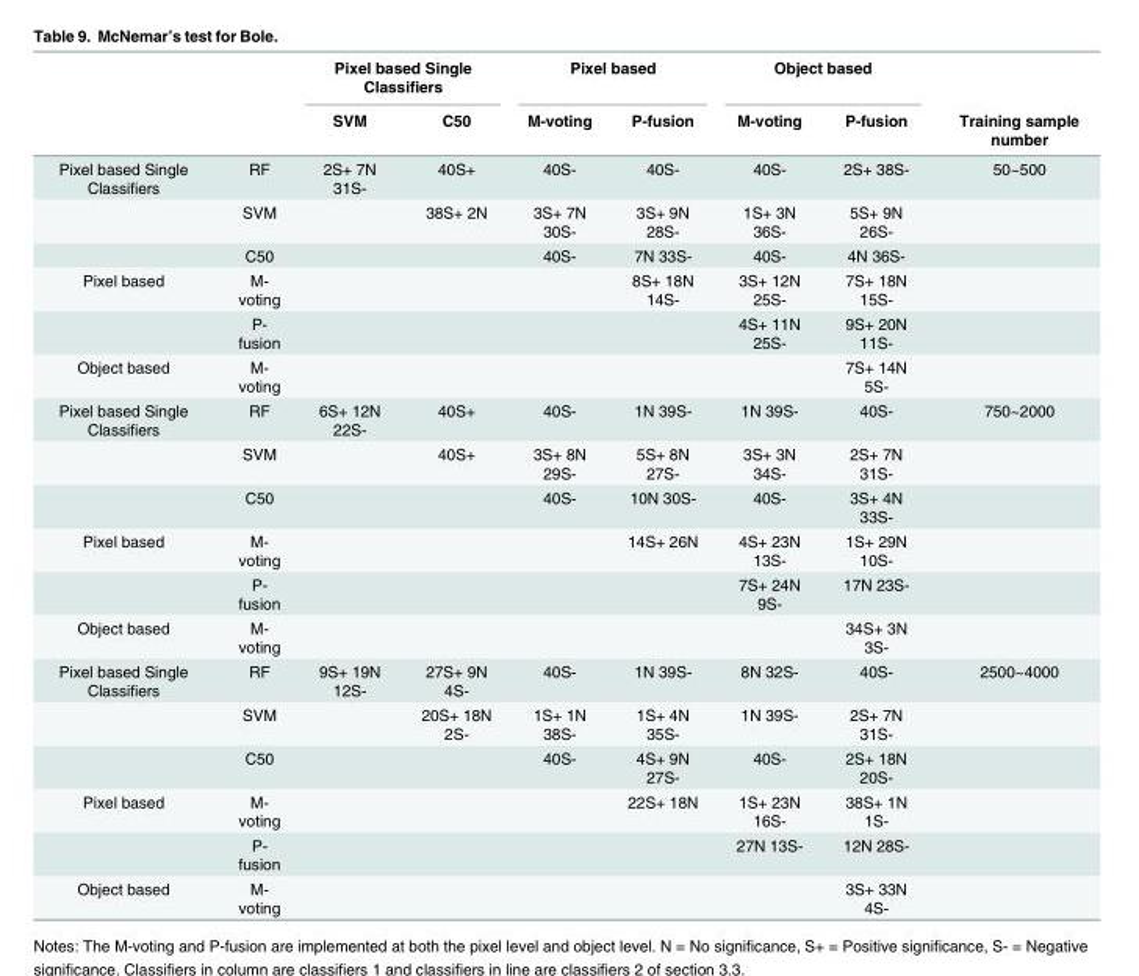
<table><thead><tr><td rowspan="2"></td><td rowspan="2"></td><td colspan="2">Pixel based Single Classifiers</td><td colspan="2">Pixel based</td><td colspan="2">Object based</td><td rowspan="2">Training sample number</td></tr><tr><td>SVM</td><td>C50</td><td>M-voting</td><td>P-fusion</td><td>M-voting</td><td>P-fusion</td></tr></thead><tbody><tr><td rowspan="3">Pixel based Single Classifiers</td><td>RF</td><td>2S+ 7N 31S-</td><td>40S+</td><td>40S-</td><td>40S-</td><td>40S-</td><td>2S+ 38S-</td><td>50~500</td></tr><tr><td>SVM</td><td></td><td>38S+ 2N</td><td>3S+ 7N 30S-</td><td>3S+ 9N 28S-</td><td>1S+ 3N 36S-</td><td>5S+ 9N 26S-</td><td></td></tr><tr><td>C50</td><td></td><td></td><td>40S-</td><td>7N 33S-</td><td>40S-</td><td>4N 36S-</td><td></td></tr><tr><td rowspan="2">Pixel based</td><td>M- voting</td><td></td><td></td><td></td><td>8S+ 18N 14S-</td><td>3S+ 12N 25S-</td><td>7S+ 18N 15S-</td><td></td></tr><tr><td>P- fusion</td><td></td><td></td><td></td><td></td><td>4S+ 11N 25S-</td><td>9S+ 20N 11S-</td><td></td></tr><tr><td>Object based</td><td>M- voting</td><td></td><td></td><td></td><td></td><td></td><td>7S+ 14N 5S-</td><td></td></tr><tr><td rowspan="3">Pixel based Single Classifiers</td><td>RF</td><td>6S+ 12N 22S-</td><td>40S+</td><td>40S-</td><td>1N 39S-</td><td>1N 39S-</td><td>40S-</td><td>750~2000</td></tr><tr><td>SVM</td><td></td><td>40S+</td><td>3S+ 8N 29S-</td><td>5S+ 8N 27S-</td><td>3S+ 3N 34S-</td><td>2S+ 7N 31S-</td><td></td></tr><tr><td>C50</td><td></td><td></td><td>40S-</td><td>10N 30S-</td><td>40S-</td><td>3S+ 4N 33S-</td><td></td></tr><tr><td rowspan="2">Pixel based</td><td>M- voting</td><td></td><td></td><td></td><td>14S+ 26N</td><td>4S+ 23N 13S-</td><td>1S+ 29N 10S-</td><td></td></tr><tr><td>P- fusion</td><td></td><td></td><td></td><td></td><td>7S+ 24N 9S-</td><td>17N 23S-</td><td></td></tr><tr><td>Object based</td><td>M- voting</td><td></td><td></td><td></td><td></td><td></td><td>34S+ 3N 3S-</td><td></td></tr><tr><td rowspan="3">Pixel based Single Classifiers</td><td>RF</td><td>9S+ 19N 12S-</td><td>27S+ 9N 4S-</td><td>40S-</td><td>1N 39S-</td><td>8N 32S-</td><td>40S-</td><td>2500~4000</td></tr><tr><td>SVM</td><td></td><td>20S+ 18N 2S-</td><td>1S+ 1N 38S-</td><td>1S+ 4N 35S-</td><td>1N 39S-</td><td>2S+ 7N 31S-</td><td></td></tr><tr><td>C50</td><td></td><td></td><td>40S-</td><td>4S+ 9N 27S-</td><td>40S-</td><td>2S+ 18N 20S-</td><td></td></tr><tr><td rowspan="2">Pixel based</td><td>M- voting</td><td></td><td></td><td></td><td>22S+ 18N</td><td>1S+ 23N 16S-</td><td>38S+ 1N 1S-</td><td></td></tr><tr><td>P- fusion</td><td></td><td></td><td></td><td></td><td>27N 13S-</td><td>12N 28S-</td><td></td></tr><tr><td>Object based</td><td>M- voting</td><td></td><td></td><td></td><td></td><td></td><td>3S+ 33N 4S-</td><td></td></tr></tbody></table>